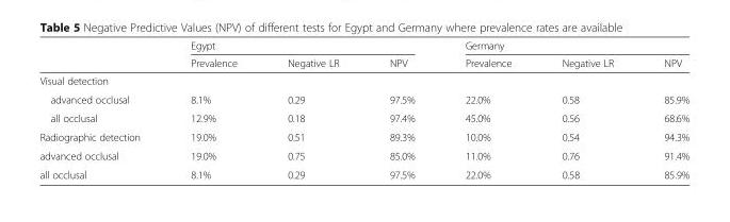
<table><thead><tr><td rowspan="2"></td><td colspan="3">Egypt</td><td colspan="3">Germany</td></tr><tr><td>Prevalence</td><td>Negative LR</td><td>NPV</td><td>Prevalence</td><td>Negative LR</td><td>NPV</td></tr></thead><tbody><tr><td colspan="7">Visual detection</td></tr><tr><td>advanced occlusal</td><td>8.1%</td><td>0.29</td><td>97.5%</td><td>22.0%</td><td>0.58</td><td>85.9%</td></tr><tr><td>all occlusal</td><td>12.9%</td><td>0.18</td><td>97.4%</td><td>45.0%</td><td>0.56</td><td>68.6%</td></tr><tr><td>Radiographic detection</td><td>19.0%</td><td>0.51</td><td>89.3%</td><td>10.0%</td><td>0.54</td><td>94.3%</td></tr><tr><td>advanced occlusal</td><td>19.0%</td><td>0.75</td><td>85.0%</td><td>11.0%</td><td>0.76</td><td>91.4%</td></tr><tr><td>all occlusal</td><td>8.1%</td><td>0.29</td><td>97.5%</td><td>22.0%</td><td>0.58</td><td>85.9%</td></tr></tbody></table>